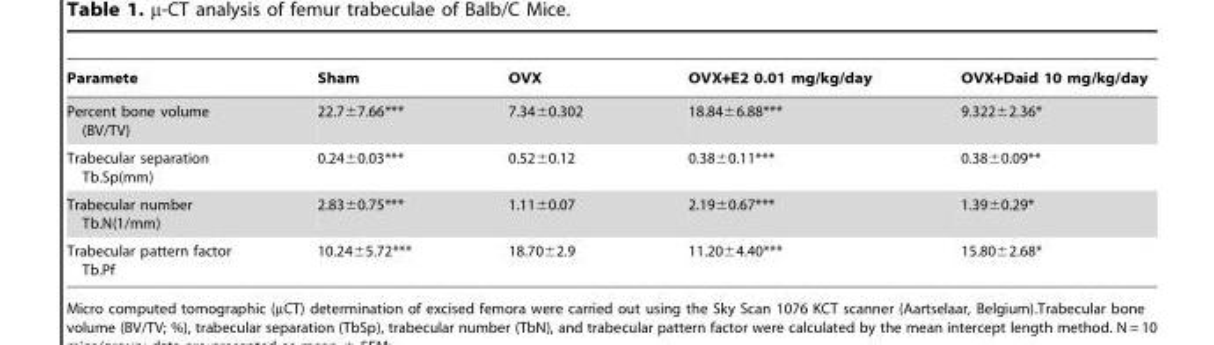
<table><thead><tr><td>Paramete</td><td>Sham</td><td>OVX</td><td>OVX+E2 0.01 mg/kg/day</td><td>OVX+Daid 10 mg/kg/day</td></tr></thead><tbody><tr><td>Percent bone volume (BV/TV)</td><td>22.7±7.66***</td><td>7.34±0.302</td><td>18.84±6.88***</td><td>9.322±2.36*</td></tr><tr><td>Trabecular separation Tb.Sp(mm)</td><td>0.24±0.03***</td><td>0.52±0.12</td><td>0.38±0.11***</td><td>0.38±0.09**</td></tr><tr><td>Trabecular number Tb.N(1/mm)</td><td>2.83±0.75***</td><td>1.11±0.07</td><td>2.19±0.67***</td><td>1.39±0.29*</td></tr><tr><td>Trabecular pattern factor Tb.Pf</td><td>10.24±5.72***</td><td>18.70±2.9</td><td>11.20±4.40***</td><td>15.80±2.68*</td></tr></tbody></table>